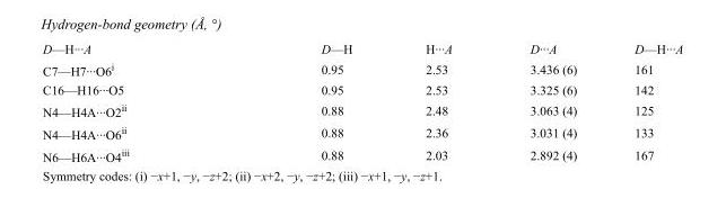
<table><tbody><tr><td>D—H···A</td><td>D—H</td><td>H···A</td><td>D···A</td><td>D—H···A</td></tr><tr><td>C7—H7···O6<sup>i</sup></td><td>0.95</td><td>2.53</td><td>3.436 (6)</td><td>161</td></tr><tr><td>C16—H16···O5</td><td>0.95</td><td>2.53</td><td>3.325 (6)</td><td>142</td></tr><tr><td>N4—H4A···O2<sup>ii</sup></td><td>0.88</td><td>2.48</td><td>3.063 (4)</td><td>125</td></tr><tr><td>N4—H4A···O6<sup>ii</sup></td><td>0.88</td><td>2.36</td><td>3.031 (4)</td><td>133</td></tr><tr><td>N6—H6A···O4<sup>iii</sup></td><td>0.88</td><td>2.03</td><td>2.892 (4)</td><td>167</td></tr></tbody></table>